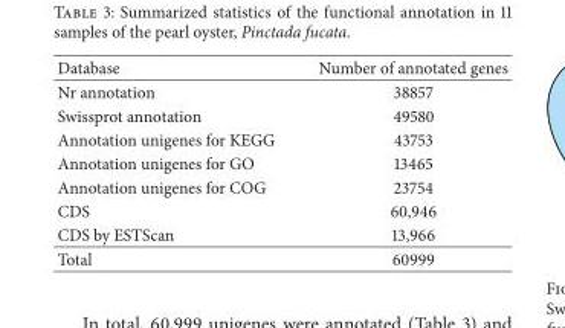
<table><thead><tr><td>Database</td><td>Number of annotated genes</td></tr></thead><tbody><tr><td>Nr annotation</td><td>38857</td></tr><tr><td>Swissprot annotation</td><td>49580</td></tr><tr><td>Annotation unigenes for KEGG</td><td>43753</td></tr><tr><td>Annotation unigenes for GO</td><td>13465</td></tr><tr><td>Annotation unigenes for COG</td><td>23754</td></tr><tr><td>CDS</td><td>60,946</td></tr><tr><td>CDS by ESTScan</td><td>13,966</td></tr><tr><td>Total</td><td>60999</td></tr></tbody></table>